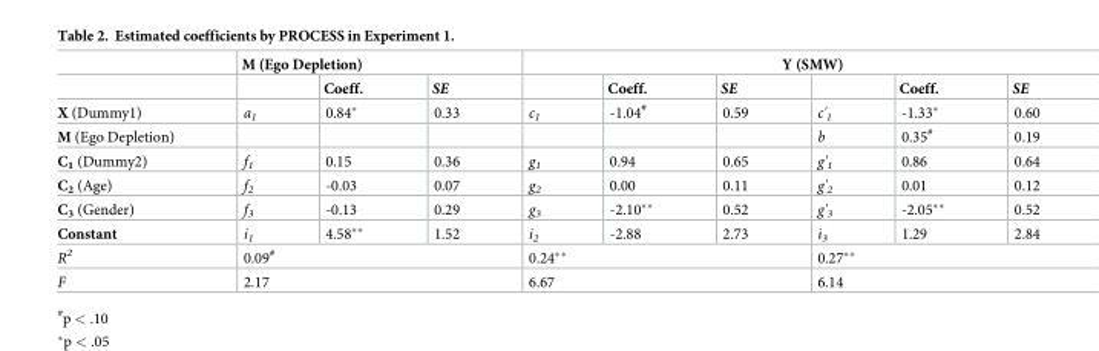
<table><thead><tr><td rowspan="2"></td><td colspan="3">M (Ego Depletion)</td><td colspan="6">Y (SMW)</td></tr><tr><td></td><td>Coeff.</td><td>SE</td><td></td><td>Coeff.</td><td>SE</td><td></td><td>Coeff.</td><td>SE</td></tr></thead><tbody><tr><td>X (Dummy1)</td><td>a<sub>1</sub></td><td>0.84*</td><td>0.33</td><td>c<sub>1</sub></td><td>-1.04<sup>#</sup></td><td>0.59</td><td>c&#x27;<sub>1</sub></td><td>-1.33*</td><td>0.60</td></tr><tr><td>M (Ego Depletion)</td><td></td><td></td><td></td><td></td><td></td><td></td><td>b</td><td>0.35<sup>#</sup></td><td>0.19</td></tr><tr><td>C<sub>1</sub> (Dummy2)</td><td>f<sub>1</sub></td><td>0.15</td><td>0.36</td><td>g<sub>1</sub></td><td>0.94</td><td>0.65</td><td>g&#x27;<sub>1</sub></td><td>0.86</td><td>0.64</td></tr><tr><td>C<sub>2</sub> (Age)</td><td>f<sub>2</sub></td><td>-0.03</td><td>0.07</td><td>g<sub>2</sub></td><td>0.00</td><td>0.11</td><td>g&#x27;<sub>2</sub></td><td>0.01</td><td>0.12</td></tr><tr><td>C<sub>3</sub> (Gender)</td><td>f<sub>3</sub></td><td>-0.13</td><td>0.29</td><td>g<sub>3</sub></td><td>-2.10**</td><td>0.52</td><td>g&#x27;<sub>3</sub></td><td>-2.05**</td><td>0.52</td></tr><tr><td>Constant</td><td>i<sub>1</sub></td><td>4.58**</td><td>1.52</td><td>i<sub>2</sub></td><td>-2.88</td><td>2.73</td><td>i<sub>3</sub></td><td>1.29</td><td>2.84</td></tr><tr><td>R<sup>2</sup></td><td colspan="3">0.09<sup>#</sup></td><td colspan="3">0.24**</td><td colspan="3">0.27**</td></tr><tr><td>F</td><td colspan="3">2.17</td><td colspan="3">6.67</td><td colspan="3">6.14</td></tr></tbody></table>